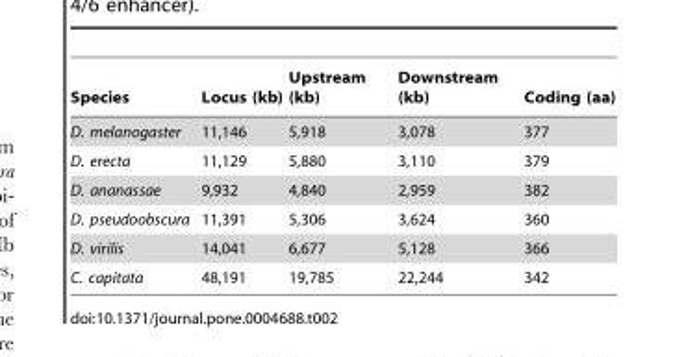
<table><thead><tr><td>Species</td><td>Locus (kb)</td><td>Upstream (kb)</td><td>Downstream (kb)</td><td>Coding (aa)</td></tr></thead><tbody><tr><td>D. melanogaster</td><td>11,146</td><td>5,918</td><td>3,078</td><td>377</td></tr><tr><td>D. erecta</td><td>11,129</td><td>5,880</td><td>3,110</td><td>379</td></tr><tr><td>D. ananassae</td><td>9,932</td><td>4,840</td><td>2,959</td><td>382</td></tr><tr><td>D. pseudoobscura</td><td>11,391</td><td>5,306</td><td>3,624</td><td>360</td></tr><tr><td>D. virilis</td><td>14,041</td><td>6,677</td><td>5,128</td><td>366</td></tr><tr><td>C. capitata</td><td>48,191</td><td>19,785</td><td>22,244</td><td>342</td></tr></tbody></table>